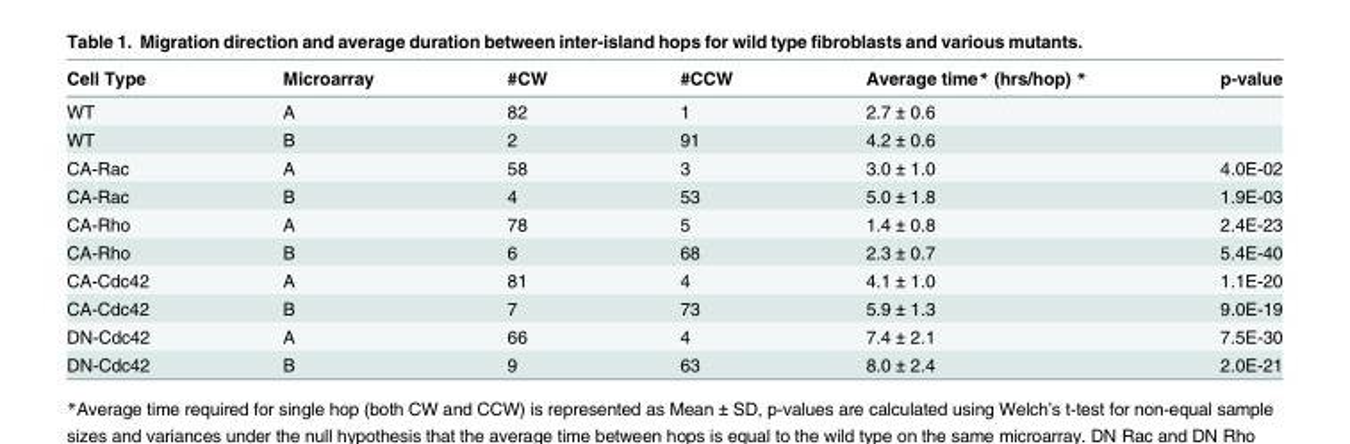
<table><thead><tr><td>Cell Type</td><td>Microarray</td><td>#CW</td><td>#CCW</td><td>Average time* (hrs/hop) *</td><td>p-value</td></tr></thead><tbody><tr><td>WT</td><td>A</td><td>82</td><td>1</td><td>2.7 ± 0.6</td><td></td></tr><tr><td>WT</td><td>B</td><td>2</td><td>91</td><td>4.2 ± 0.6</td><td></td></tr><tr><td>CA-Rac</td><td>A</td><td>58</td><td>3</td><td>3.0 ± 1.0</td><td>4.0E-02</td></tr><tr><td>CA-Rac</td><td>B</td><td>4</td><td>53</td><td>5.0 ± 1.8</td><td>1.9E-03</td></tr><tr><td>CA-Rho</td><td>A</td><td>78</td><td>5</td><td>1.4 ± 0.8</td><td>2.4E-23</td></tr><tr><td>CA-Rho</td><td>B</td><td>6</td><td>68</td><td>2.3 ± 0.7</td><td>5.4E-40</td></tr><tr><td>CA-Cdc42</td><td>A</td><td>81</td><td>4</td><td>4.1 ± 1.0</td><td>1.1E-20</td></tr><tr><td>CA-Cdc42</td><td>B</td><td>7</td><td>73</td><td>5.9 ± 1.3</td><td>9.0E-19</td></tr><tr><td>DN-Cdc42</td><td>A</td><td>66</td><td>4</td><td>7.4 ± 2.1</td><td>7.5E-30</td></tr><tr><td>DN-Cdc42</td><td>B</td><td>9</td><td>63</td><td>8.0 ± 2.4</td><td>2.0E-21</td></tr></tbody></table>